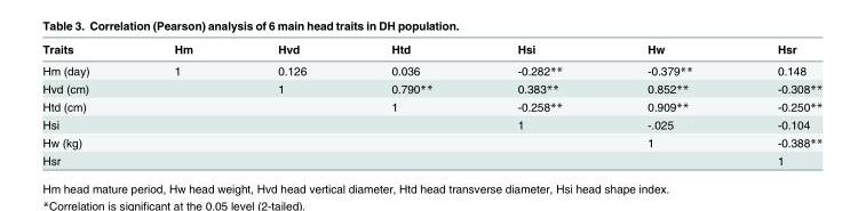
<table><thead><tr><td>Traits</td><td>Hm</td><td>Hvd</td><td>Htd</td><td>Hsi</td><td>Hw</td><td>Hsr</td></tr></thead><tbody><tr><td>Hm (day)</td><td>1</td><td>0.126</td><td>0.036</td><td>-0.282**</td><td>-0.379**</td><td>0.148</td></tr><tr><td>Hvd (cm)</td><td></td><td>1</td><td>0.790**</td><td>0.383**</td><td>0.852**</td><td>-0.308**</td></tr><tr><td>Htd (cm)</td><td></td><td></td><td>1</td><td>-0.258**</td><td>0.909**</td><td>-0.250**</td></tr><tr><td>Hsi</td><td></td><td></td><td></td><td>1</td><td>-.025</td><td>-0.104</td></tr><tr><td>Hw (kg)</td><td></td><td></td><td></td><td></td><td>1</td><td>-0.388**</td></tr><tr><td>Hsr</td><td></td><td></td><td></td><td></td><td></td><td>1</td></tr></tbody></table>